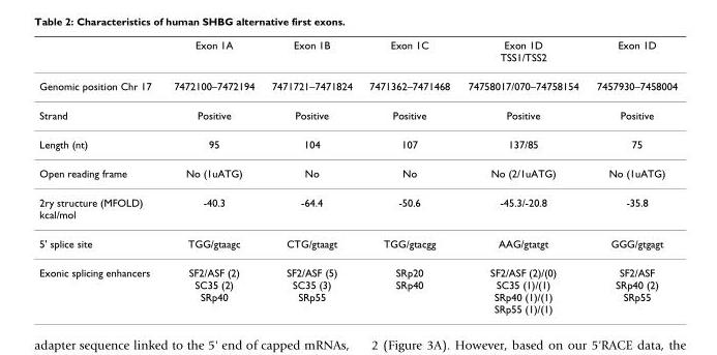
<table><thead><tr><td></td><td>Exon 1A</td><td>Exon 1B</td><td>Exon 1C</td><td>Exon 1D TSS1/TSS2</td><td>Exon 1D</td></tr></thead><tbody><tr><td>Genomic position Chr 17</td><td>7472100–7472194</td><td>7471721–7471824</td><td>7471362–7471468</td><td>74758017/070–74758154</td><td>7457930–7458004</td></tr><tr><td>Strand</td><td>Positive</td><td>Positive</td><td>Positive</td><td>Positive</td><td>Positive</td></tr><tr><td>Length (nt)</td><td>95</td><td>104</td><td>107</td><td>137/85</td><td>75</td></tr><tr><td>Open reading frame</td><td>No (1uATG)</td><td>No</td><td>No</td><td>No (2/1uATG)</td><td>No (1uATG)</td></tr><tr><td>2ry structure (MFOLD) kcal/mol</td><td>-40.3</td><td>-64.4</td><td>-50.6</td><td>-45.3/-20.8</td><td>-35.8</td></tr><tr><td>5&#x27; splice site</td><td>TGG/gtaagc</td><td>CTG/gtaagt</td><td>TGG/gtacgg</td><td>AAG/gtatgt</td><td>GGG/gtgagt</td></tr><tr><td>Exonic splicing enhancers</td><td>SF2/ASF (2) SC35 (2) SRp40</td><td>SF2/ASF (5) SC35 (3) SRp55</td><td>SRp20 SRp40</td><td>SF2/ASF (2)/(0) SC35 (1)/(1) SRp40 (1)/(1) SRp55 (1)/(1)</td><td>SF2/ASF SRp40 (2) SRp55</td></tr></tbody></table>